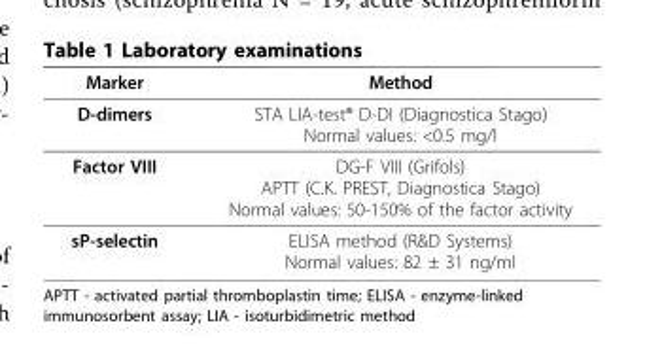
<table><thead><tr><td>Marker</td><td>Method</td></tr></thead><tbody><tr><td>D-dimers</td><td>STA LIA-test<sup>®</sup> D-DI (Diagnostica Stago) Normal values: &lt;0.5 mg/l</td></tr><tr><td>Factor VIII</td><td>DG-F VIII (Grifols) APTT (C.K. PREST, Diagnostica Stago) Normal values: 50-150% of the factor activity</td></tr><tr><td>sP-selectin</td><td>ELISA method (R&amp;D Systems) Normal values: 82 ± 31 ng/ml</td></tr></tbody></table>